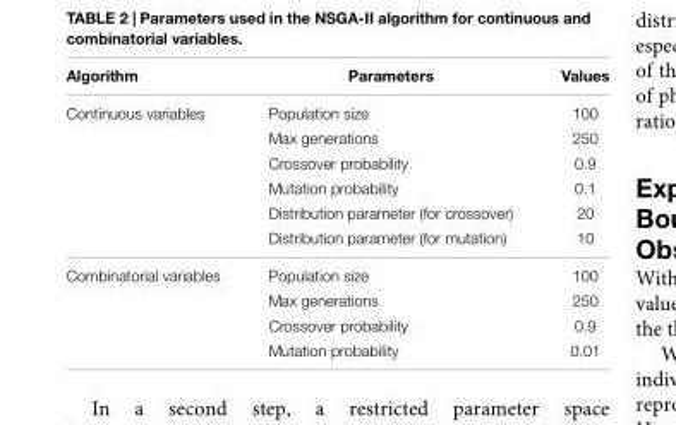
<table><thead><tr><td>Algorithm</td><td>Parameters</td><td>Values</td></tr></thead><tbody><tr><td rowspan="6">Continuous variables</td><td>Population size</td><td>100</td></tr><tr><td>Max generations</td><td>250</td></tr><tr><td>Crossover probability</td><td>0.9</td></tr><tr><td>Mutation probability</td><td>0.1</td></tr><tr><td>Distribution parameter (for crossover)</td><td>20</td></tr><tr><td>Distribution parameter (for mutation)</td><td>10</td></tr><tr><td rowspan="4">Combinatorial variables</td><td>Population size</td><td>100</td></tr><tr><td>Max generations</td><td>250</td></tr><tr><td>Crossover probability</td><td>0.9</td></tr><tr><td>Mutation probability</td><td>0.01</td></tr></tbody></table>